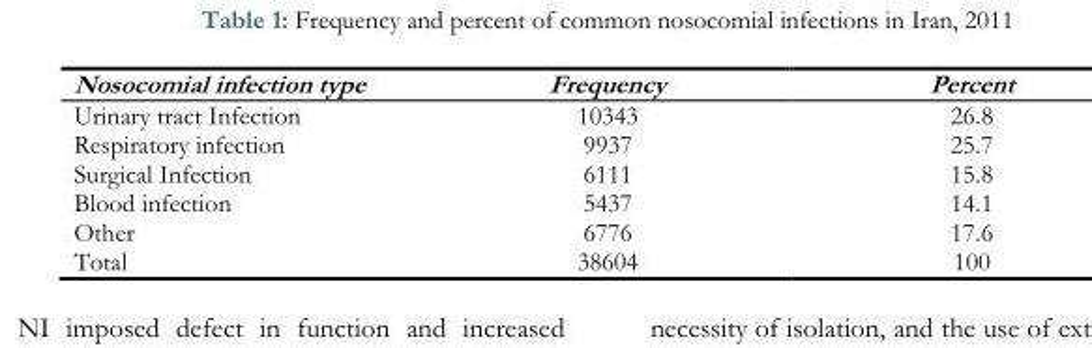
<table><thead><tr><td>Nosocomial infection type</td><td>Frequency</td><td>Percent</td></tr></thead><tbody><tr><td>Urinary tract Infection</td><td>10343</td><td>26.8</td></tr><tr><td>Respiratory infection</td><td>9937</td><td>25.7</td></tr><tr><td>Surgical Infection</td><td>6111</td><td>15.8</td></tr><tr><td>Blood infection</td><td>5437</td><td>14.1</td></tr><tr><td>Other</td><td>6776</td><td>17.6</td></tr><tr><td>Total</td><td>38604</td><td>100</td></tr></tbody></table>